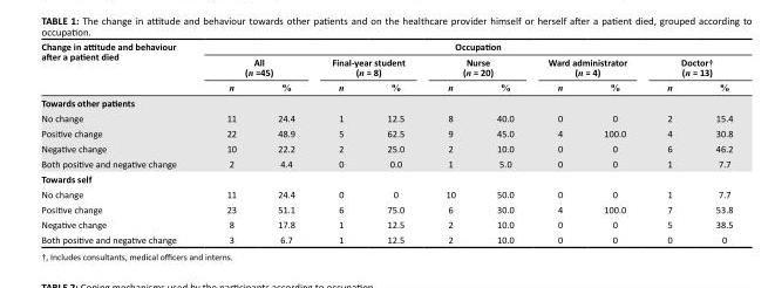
<table><thead><tr><td rowspan="3">Change in attitude and behaviour after a patient died</td><td colspan="10">Occupation</td></tr><tr><td colspan="2">All (n =45)</td><td colspan="2">Final-year student (n = 8)</td><td colspan="2">Nurse (n = 20)</td><td colspan="2">Ward administrator (n = 4)</td><td colspan="2">Doctor† (n = 13)</td></tr><tr><td>n</td><td>%</td><td>n</td><td>%</td><td>n</td><td>%</td><td>n</td><td>%</td><td>n</td><td>%</td></tr></thead><tbody><tr><td colspan="11">Towards other patients</td></tr><tr><td>No change</td><td>11</td><td>24.4</td><td>1</td><td>12.5</td><td>8</td><td>40.0</td><td>0</td><td>0</td><td>2</td><td>15.4</td></tr><tr><td>Positive change</td><td>22</td><td>48.9</td><td>5</td><td>62.5</td><td>9</td><td>45.0</td><td>4</td><td>100.0</td><td>4</td><td>30.8</td></tr><tr><td>Negative change</td><td>10</td><td>22.2</td><td>2</td><td>25.0</td><td>2</td><td>10.0</td><td>0</td><td>0</td><td>6</td><td>46.2</td></tr><tr><td>Both positive and negative change</td><td>2</td><td>4.4</td><td>0</td><td>0.0</td><td>1</td><td>5.0</td><td>0</td><td>0</td><td>1</td><td>7.7</td></tr><tr><td colspan="11">Towards self</td></tr><tr><td>No change</td><td>11</td><td>24.4</td><td>0</td><td>0</td><td>10</td><td>50.0</td><td>0</td><td>0</td><td>1</td><td>7.7</td></tr><tr><td>Positive change</td><td>23</td><td>51.1</td><td>6</td><td>75.0</td><td>6</td><td>30.0</td><td>4</td><td>100.0</td><td>7</td><td>53.8</td></tr><tr><td>Negative change</td><td>8</td><td>17.8</td><td>1</td><td>12.5</td><td>2</td><td>10.0</td><td>0</td><td>0</td><td>5</td><td>38.5</td></tr><tr><td>Both positive and negative change</td><td>3</td><td>6.7</td><td>1</td><td>12.5</td><td>2</td><td>10.0</td><td>0</td><td>0</td><td>0</td><td>0</td></tr></tbody></table>